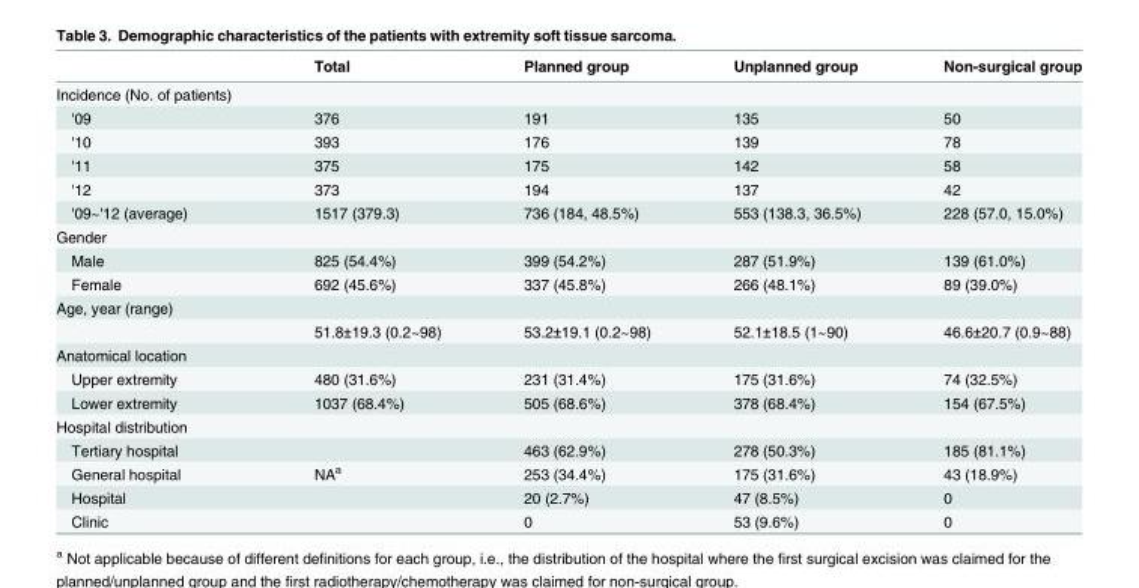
<table><thead><tr><td></td><td>Total</td><td>Planned group</td><td>Unplanned group</td><td>Non-surgical group</td></tr></thead><tbody><tr><td colspan="5">Incidence (No. of patients)</td></tr><tr><td>&#x27;09</td><td>376</td><td>191</td><td>135</td><td>50</td></tr><tr><td>&#x27;10</td><td>393</td><td>176</td><td>139</td><td>78</td></tr><tr><td>&#x27;11</td><td>375</td><td>175</td><td>142</td><td>58</td></tr><tr><td>&#x27;12</td><td>373</td><td>194</td><td>137</td><td>42</td></tr><tr><td>&#x27;09~&#x27;12 (average)</td><td>1517 (379.3)</td><td>736 (184, 48.5%)</td><td>553 (138.3, 36.5%)</td><td>228 (57.0, 15.0%)</td></tr><tr><td colspan="5">Gender</td></tr><tr><td>Male</td><td>825 (54.4%)</td><td>399 (54.2%)</td><td>287 (51.9%)</td><td>139 (61.0%)</td></tr><tr><td>Female</td><td>692 (45.6%)</td><td>337 (45.8%)</td><td>266 (48.1%)</td><td>89 (39.0%)</td></tr><tr><td colspan="5">Age, year (range)</td></tr><tr><td></td><td>51.8±19.3 (0.2~98)</td><td>53.2±19.1 (0.2~98)</td><td>52.1±18.5 (1~90)</td><td>46.6±20.7 (0.9~88)</td></tr><tr><td colspan="5">Anatomical location</td></tr><tr><td>Upper extremity</td><td>480 (31.6%)</td><td>231 (31.4%)</td><td>175 (31.6%)</td><td>74 (32.5%)</td></tr><tr><td>Lower extremity</td><td>1037 (68.4%)</td><td>505 (68.6%)</td><td>378 (68.4%)</td><td>154 (67.5%)</td></tr><tr><td colspan="5">Hospital distribution</td></tr><tr><td>Tertiary hospital</td><td></td><td>463 (62.9%)</td><td>278 (50.3%)</td><td>185 (81.1%)</td></tr><tr><td>General hospital</td><td>NA<sup>a</sup></td><td>253 (34.4%)</td><td>175 (31.6%)</td><td>43 (18.9%)</td></tr><tr><td>Hospital</td><td></td><td>20 (2.7%)</td><td>47 (8.5%)</td><td>0</td></tr><tr><td>Clinic</td><td></td><td>0</td><td>53 (9.6%)</td><td>0</td></tr></tbody></table>